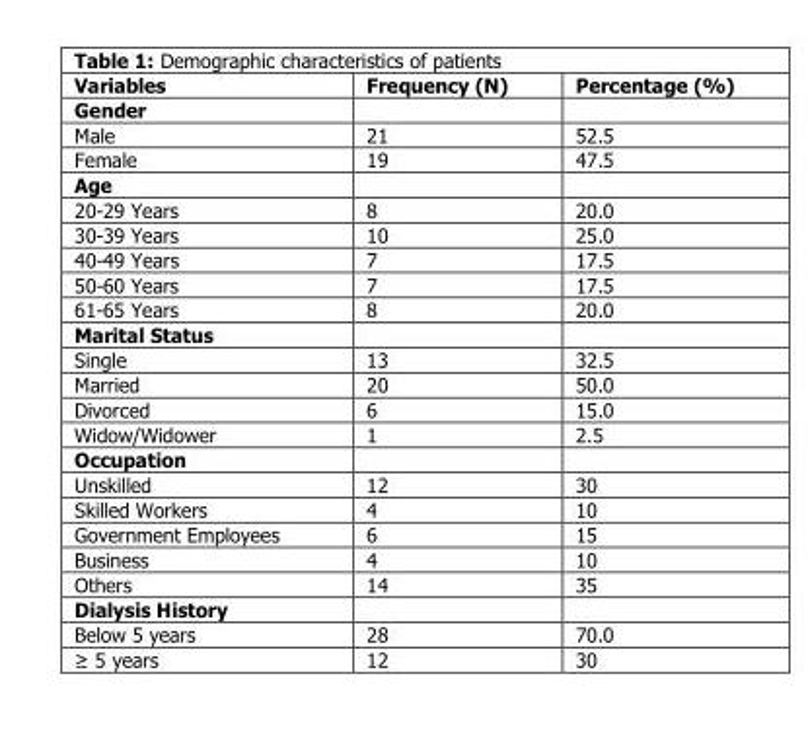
<table><thead><tr><td>Variables</td><td>Frequency (N)</td><td>Percentage (%)</td></tr></thead><tbody><tr><td colspan="3">Gender</td></tr><tr><td>Male</td><td>21</td><td>52.5</td></tr><tr><td>Female</td><td>19</td><td>47.5</td></tr><tr><td colspan="3">Age</td></tr><tr><td>20-29 Years</td><td>8</td><td>20.0</td></tr><tr><td>30-39 Years</td><td>10</td><td>25.0</td></tr><tr><td>40-49 Years</td><td>7</td><td>17.5</td></tr><tr><td>50-60 Years</td><td>7</td><td>17.5</td></tr><tr><td>61-65 Years</td><td>8</td><td>20.0</td></tr><tr><td colspan="3">Marital Status</td></tr><tr><td>Single</td><td>13</td><td>32.5</td></tr><tr><td>Married</td><td>20</td><td>50.0</td></tr><tr><td>Divorced</td><td>6</td><td>15.0</td></tr><tr><td>Widow/Widower</td><td>1</td><td>2.5</td></tr><tr><td colspan="3">Occupation</td></tr><tr><td>Unskilled</td><td>12</td><td>30</td></tr><tr><td>Skilled Workers</td><td>4</td><td>10</td></tr><tr><td>Government Employees</td><td>6</td><td>15</td></tr><tr><td>Business</td><td>4</td><td>10</td></tr><tr><td>Others</td><td>14</td><td>35</td></tr><tr><td colspan="3">Dialysis History</td></tr><tr><td>Below 5 years</td><td>28</td><td>70.0</td></tr><tr><td>≥ 5 years</td><td>12</td><td>30</td></tr></tbody></table>